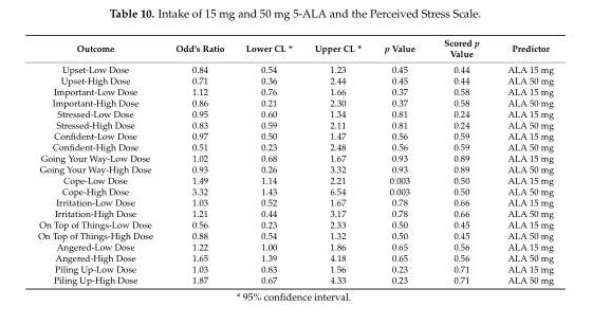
<table><thead><tr><td>Outcome</td><td>Odd’s Ratio</td><td>Lower CL *</td><td>Upper CL *</td><td>p Value</td><td>Scored p Value</td><td>Predictor</td></tr></thead><tbody><tr><td>Upset-Low Dose</td><td>0.84</td><td>0.54</td><td>1.23</td><td>0.45</td><td>0.44</td><td>ALA 15 mg</td></tr><tr><td>Upset-High Dose</td><td>0.71</td><td>0.36</td><td>2.44</td><td>0.45</td><td>0.44</td><td>ALA 50 mg</td></tr><tr><td>Important-Low Dose</td><td>1.12</td><td>0.76</td><td>1.66</td><td>0.37</td><td>0.58</td><td>ALA 15 mg</td></tr><tr><td>Important-High Dose</td><td>0.86</td><td>0.21</td><td>2.30</td><td>0.37</td><td>0.58</td><td>ALA 50 mg</td></tr><tr><td>Stressed-Low Dose</td><td>0.95</td><td>0.60</td><td>1.34</td><td>0.81</td><td>0.24</td><td>ALA 15 mg</td></tr><tr><td>Stressed-High Dose</td><td>0.83</td><td>0.59</td><td>2.11</td><td>0.81</td><td>0.24</td><td>ALA 50 mg</td></tr><tr><td>Confident-Low Dose</td><td>0.97</td><td>0.50</td><td>1.47</td><td>0.56</td><td>0.59</td><td>ALA 15 mg</td></tr><tr><td>Confident-High Dose</td><td>0.51</td><td>0.23</td><td>2.48</td><td>0.56</td><td>0.59</td><td>ALA 50 mg</td></tr><tr><td>Going Your Way-Low Dose</td><td>1.02</td><td>0.68</td><td>1.67</td><td>0.93</td><td>0.89</td><td>ALA 15 mg</td></tr><tr><td>Going Your Way-High Dose</td><td>0.93</td><td>0.26</td><td>3.32</td><td>0.93</td><td>0.89</td><td>ALA 50 mg</td></tr><tr><td>Cope-Low Dose</td><td>1.49</td><td>1.14</td><td>2.21</td><td>0.003</td><td>0.50</td><td>ALA 15 mg</td></tr><tr><td>Cope-High Dose</td><td>3.32</td><td>1.43</td><td>6.54</td><td>0.003</td><td>0.50</td><td>ALA 50 mg</td></tr><tr><td>Irritation-Low Dose</td><td>1.03</td><td>0.52</td><td>1.67</td><td>0.78</td><td>0.66</td><td>ALA 15 mg</td></tr><tr><td>Irritation-High Dose</td><td>1.21</td><td>0.44</td><td>3.17</td><td>0.78</td><td>0.66</td><td>ALA 50 mg</td></tr><tr><td>On Top of Things-Low Dose</td><td>0.56</td><td>0.23</td><td>2.33</td><td>0.50</td><td>0.45</td><td>ALA 15 mg</td></tr><tr><td>On Top of Things-High Dose</td><td>0.88</td><td>0.54</td><td>1.32</td><td>0.50</td><td>0.45</td><td>ALA 50 mg</td></tr><tr><td>Angered-Low Dose</td><td>1.22</td><td>1.00</td><td>1.86</td><td>0.65</td><td>0.56</td><td>ALA 15 mg</td></tr><tr><td>Angered-High Dose</td><td>1.65</td><td>1.39</td><td>4.18</td><td>0.65</td><td>0.56</td><td>ALA 50 mg</td></tr><tr><td>Piling Up-Low Dose</td><td>1.03</td><td>0.83</td><td>1.56</td><td>0.23</td><td>0.71</td><td>ALA 15 mg</td></tr><tr><td>Piling Up-High Dose</td><td>1.87</td><td>0.67</td><td>4.33</td><td>0.23</td><td>0.71</td><td>ALA 50 mg</td></tr></tbody></table>